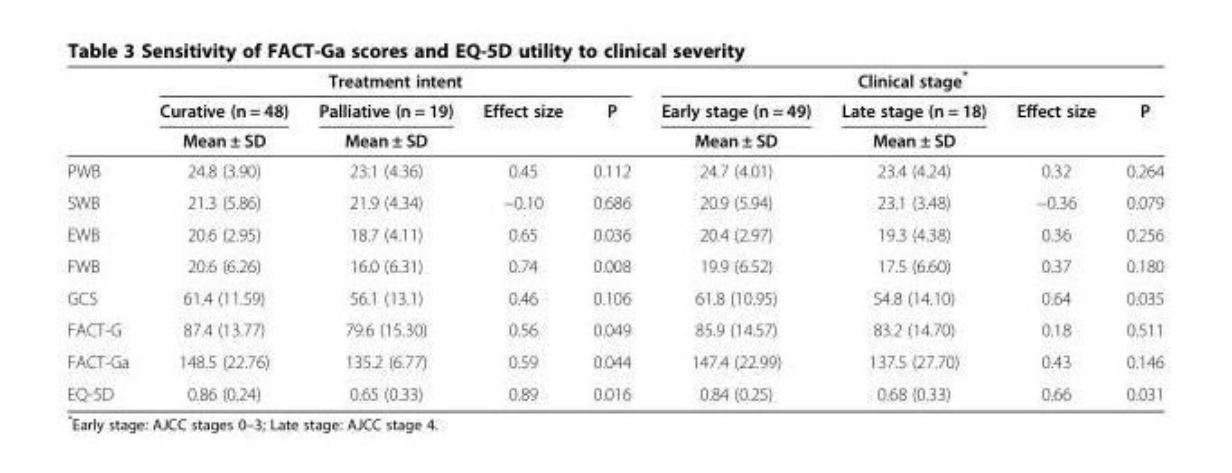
<table><thead><tr><td rowspan="3"></td><td colspan="4">Treatment intent</td><td colspan="4">Clinical stage*</td></tr><tr><td rowspan="2">Curative (n = 48) Mean ± SD</td><td rowspan="2">Palliative (n = 19) Mean ± SD</td><td rowspan="2">Effect size</td><td rowspan="2">P</td><td rowspan="2">Early stage (n = 49) Mean ± SD</td><td rowspan="2">Late stage (n = 18) Mean ± SD</td><td rowspan="2">Effect size</td><td rowspan="2">P</td></tr><tr></tr></thead><tbody><tr><td>PWB</td><td>24.8 (3.90)</td><td>23.1 (4.36)</td><td>0.45</td><td>0.112</td><td>24.7 (4.01)</td><td>23.4 (4.24)</td><td>0.32</td><td>0.264</td></tr><tr><td>SWB</td><td>21.3 (5.86)</td><td>21.9 (4.34)</td><td>−0.10</td><td>0.686</td><td>20.9 (5.94)</td><td>23.1 (3.48)</td><td>−0.36</td><td>0.079</td></tr><tr><td>EWB</td><td>20.6 (2.95)</td><td>18.7 (4.11)</td><td>0.65</td><td>0.036</td><td>20.4 (2.97)</td><td>19.3 (4.38)</td><td>0.36</td><td>0.256</td></tr><tr><td>FWB</td><td>20.6 (6.26)</td><td>16.0 (6.31)</td><td>0.74</td><td>0.008</td><td>19.9 (6.52)</td><td>17.5 (6.60)</td><td>0.37</td><td>0.180</td></tr><tr><td>GCS</td><td>61.4 (11.59)</td><td>56.1 (13.1)</td><td>0.46</td><td>0.106</td><td>61.8 (10.95)</td><td>54.8 (14.10)</td><td>0.64</td><td>0.035</td></tr><tr><td>FACT-G</td><td>87.4 (13.77)</td><td>79.6 (15.30)</td><td>0.56</td><td>0.049</td><td>85.9 (14.57)</td><td>83.2 (14.70)</td><td>0.18</td><td>0.511</td></tr><tr><td>FACT-Ga</td><td>148.5 (22.76)</td><td>135.2 (6.77)</td><td>0.59</td><td>0.044</td><td>147.4 (22.99)</td><td>137.5 (27.70)</td><td>0.43</td><td>0.146</td></tr><tr><td>EQ-5D</td><td>0.86 (0.24)</td><td>0.65 (0.33)</td><td>0.89</td><td>0.016</td><td>0.84 (0.25)</td><td>0.68 (0.33)</td><td>0.66</td><td>0.031</td></tr></tbody></table>